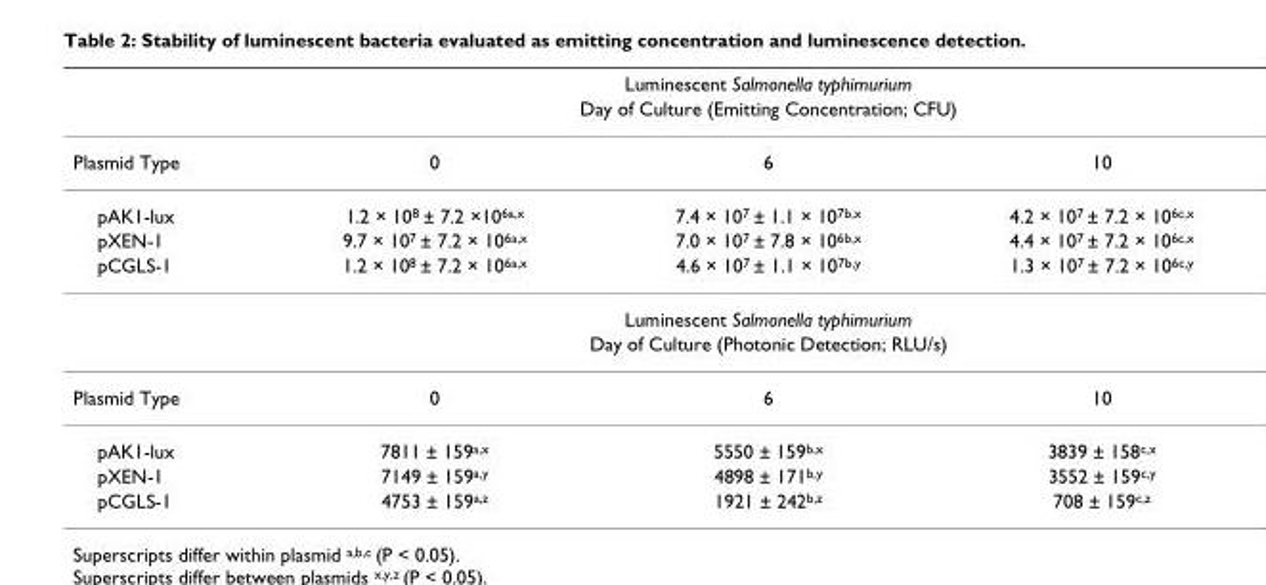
<table><thead><tr><td rowspan="3">Plasmid Type</td><td rowspan="2" colspan="3">Luminescent Salmonella typhimurium Day of Culture (Emitting Concentration; CFU)</td></tr><tr></tr><tr><td>0</td><td>6</td><td>10</td></tr></thead><tbody><tr><td>pAK1-lux</td><td>1.2 × 10<sup>8</sup> ± 7.2 ×10<sup>6a,x</sup></td><td>7.4 × 10<sup>7</sup> ± 1.1 × 10<sup>7b,x</sup></td><td>4.2 × 10<sup>7</sup> ± 7.2 × 10<sup>6c,x</sup></td></tr><tr><td>pXEN-1</td><td>9.7 × 10<sup>7</sup> ± 7.2 × 10<sup>6a,x</sup></td><td>7.0 × 10<sup>7</sup> ± 7.8 × 10<sup>6b,x</sup></td><td>4.4 × 10<sup>7</sup> ± 7.2 × 10<sup>6c,x</sup></td></tr><tr><td rowspan="3">pCGLS-1</td><td>1.2 × 10<sup>8</sup> ± 7.2 × 10<sup>6a,x</sup></td><td>4.6 × 10<sup>7</sup> ± 1.1 × 10<sup>7b,y</sup></td><td>1.3 × 10<sup>7</sup> ± 7.2 × 10<sup>6c,y</sup></td></tr><tr><td colspan="3">Luminescent Salmonella typhimurium</td></tr><tr><td colspan="3">Day of Culture (Photonic Detection; RLU/s)</td></tr><tr><td>Plasmid Type</td><td>0</td><td>6</td><td>10</td></tr><tr><td>pAK1-lux</td><td>7811 ± 159<sup>a,x</sup></td><td>5550 ± 159<sup>b,x</sup></td><td>3839 ± 158<sup>c,x</sup></td></tr><tr><td>pXEN-1</td><td>7149 ± 159<sup>a,y</sup></td><td>4898 ± 171<sup>b,y</sup></td><td>3552 ± 159<sup>c,y</sup></td></tr><tr><td>pCGLS-1</td><td>4753 ± 159<sup>a,z</sup></td><td>1921 ± 242<sup>b,z</sup></td><td>708 ± 159<sup>c,z</sup></td></tr></tbody></table>